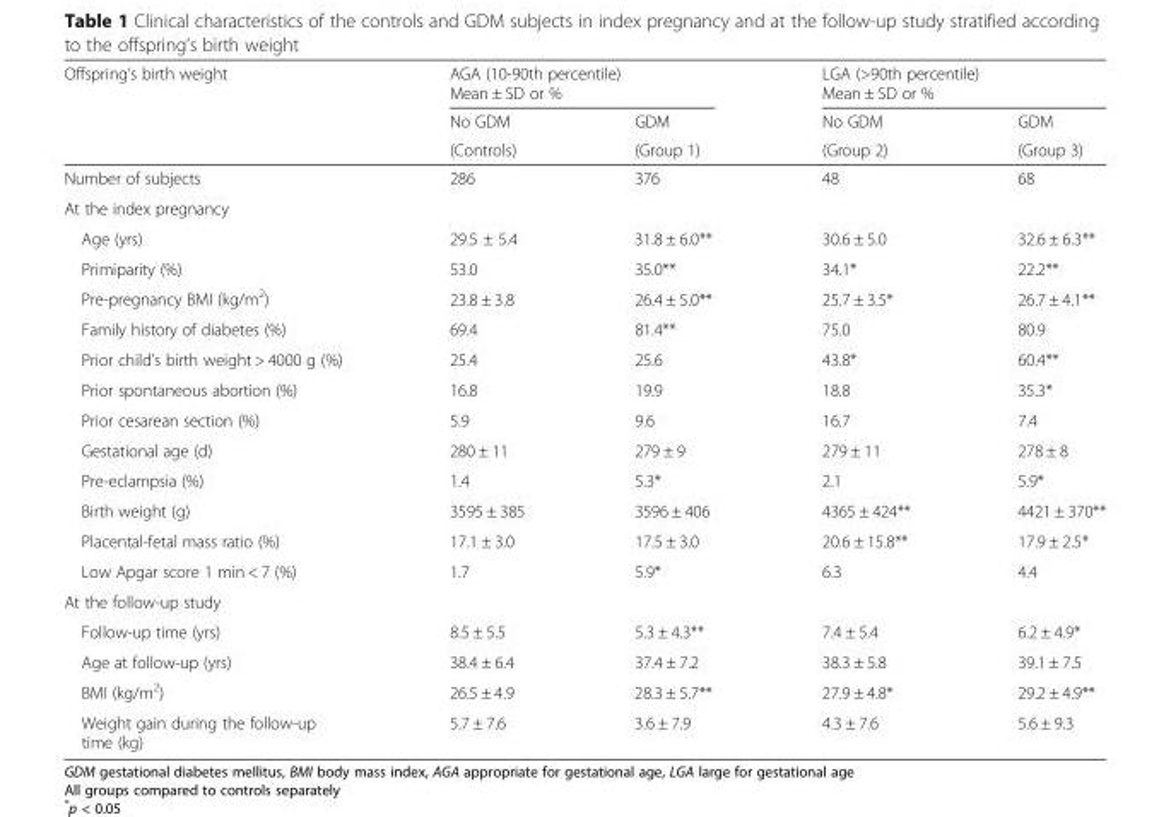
<table><thead><tr><td rowspan="4">Offspring’s birth weight</td><td rowspan="2" colspan="2">AGA (10-90th percentile) Mean ± SD or %</td><td rowspan="2" colspan="2">LGA (&gt;90th percentile) Mean ± SD or %</td></tr><tr></tr><tr><td rowspan="2">No GDM (Controls)</td><td rowspan="2">GDM (Group 1)</td><td rowspan="2">No GDM (Group 2)</td><td rowspan="2">GDM (Group 3)</td></tr><tr></tr></thead><tbody><tr><td>Number of subjects</td><td>286</td><td>376</td><td>48</td><td>68</td></tr><tr><td colspan="5">At the index pregnancy</td></tr><tr><td>Age (yrs)</td><td>29.5 ± 5.4</td><td>31.8 ± 6.0**</td><td>30.6 ± 5.0</td><td>32.6 ± 6.3**</td></tr><tr><td>Primiparity (%)</td><td>53.0</td><td>35.0**</td><td>34.1*</td><td>22.2**</td></tr><tr><td>Pre-pregnancy BMI (kg/m<sup>2</sup>)</td><td>23.8 ± 3.8</td><td>26.4 ± 5.0**</td><td>25.7 ± 3.5*</td><td>26.7 ± 4.1**</td></tr><tr><td>Family history of diabetes (%)</td><td>69.4</td><td>81.4**</td><td>75.0</td><td>80.9</td></tr><tr><td>Prior child’s birth weight &gt; 4000 g (%)</td><td>25.4</td><td>25.6</td><td>43.8*</td><td>60.4**</td></tr><tr><td>Prior spontaneous abortion (%)</td><td>16.8</td><td>19.9</td><td>18.8</td><td>35.3*</td></tr><tr><td>Prior cesarean section (%)</td><td>5.9</td><td>9.6</td><td>16.7</td><td>7.4</td></tr><tr><td>Gestational age (d)</td><td>280 ± 11</td><td>279 ± 9</td><td>279 ± 11</td><td>278 ± 8</td></tr><tr><td>Pre-eclampsia (%)</td><td>1.4</td><td>5.3*</td><td>2.1</td><td>5.9*</td></tr><tr><td>Birth weight (g)</td><td>3595 ± 385</td><td>3596 ± 406</td><td>4365 ± 424**</td><td>4421 ± 370**</td></tr><tr><td>Placental-fetal mass ratio (%)</td><td>17.1 ± 3.0</td><td>17.5 ± 3.0</td><td>20.6 ± 15.8**</td><td>17.9 ± 2.5*</td></tr><tr><td>Low Apgar score 1 min &lt; 7 (%)</td><td>1.7</td><td>5.9*</td><td>6.3</td><td>4.4</td></tr><tr><td colspan="5">At the follow-up study</td></tr><tr><td>Follow-up time (yrs)</td><td>8.5 ± 5.5</td><td>5.3 ± 4.3**</td><td>7.4 ± 5.4</td><td>6.2 ± 4.9*</td></tr><tr><td>Age at follow-up (yrs)</td><td>38.4 ± 6.4</td><td>37.4 ± 7.2</td><td>38.3 ± 5.8</td><td>39.1 ± 7.5</td></tr><tr><td>BMI (kg/m<sup>2</sup>)</td><td>26.5 ± 4.9</td><td>28.3 ± 5.7**</td><td>27.9 ± 4.8*</td><td>29.2 ± 4.9**</td></tr><tr><td>Weight gain during the follow-up time (kg)</td><td>5.7 ± 7.6</td><td>3.6 ± 7.9</td><td>4.3 ± 7.6</td><td>5.6 ± 9.3</td></tr></tbody></table>